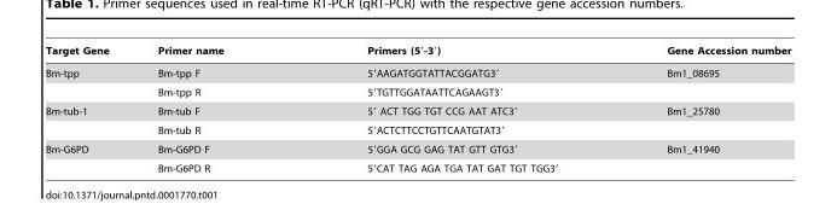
<table><thead><tr><td>Target Gene</td><td>Primer name</td><td>Primers (5′-3′)</td><td>Gene Accession number</td></tr></thead><tbody><tr><td rowspan="2">Bm-tpp</td><td>Bm-tpp F</td><td>5′AAGATGGTATTACGGATG3′</td><td>Bm1_08695</td></tr><tr><td>Bm-tpp R</td><td>5′TGTTGGATAATTCAGAAGT3′</td><td></td></tr><tr><td rowspan="2">Bm-tub-1</td><td>Bm-tub F</td><td>5′ ACT TGG TGT CCG AAT ATC3′</td><td>Bm1_25780</td></tr><tr><td>Bm-tub R</td><td>5′ACTCTTCCTGTTCAATGTAT3′</td><td></td></tr><tr><td rowspan="2">Bm-G6PD</td><td>Bm-G6PD F</td><td>5′GGA GCG GAG TAT GTT GTG3′</td><td>Bm1_41940</td></tr><tr><td>Bm-G6PD R</td><td>5′CAT TAG AGA TGA TAT GAT TGT TGG3′</td><td></td></tr></tbody></table>